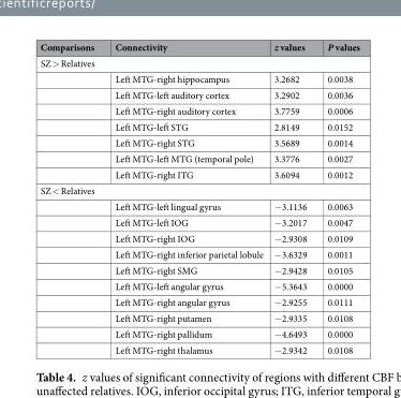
<table><thead><tr><td>Comparisons</td><td>Connectivity</td><td>z values</td><td>P values</td></tr></thead><tbody><tr><td colspan="4">SZ &gt; Relatives</td></tr><tr><td></td><td>Left MTG-right hippocampus</td><td>3.2682</td><td>0.0038</td></tr><tr><td></td><td>Left MTG-left auditory cortex</td><td>3.2902</td><td>0.0036</td></tr><tr><td></td><td>Left MTG-right auditory cortex</td><td>3.7759</td><td>0.0006</td></tr><tr><td></td><td>Left MTG-left STG</td><td>2.8149</td><td>0.0152</td></tr><tr><td></td><td>Left MTG-right STG</td><td>3.5689</td><td>0.0014</td></tr><tr><td></td><td>Left MTG-left MTG (temporal pole)</td><td>3.3776</td><td>0.0027</td></tr><tr><td></td><td>Left MTG-right ITG</td><td>3.6094</td><td>0.0012</td></tr><tr><td colspan="4">SZ &lt; Relatives</td></tr><tr><td></td><td>Left MTG-left lingual gyrus</td><td>−3.1136</td><td>0.0063</td></tr><tr><td></td><td>Left MTG-left IOG</td><td>−3.2017</td><td>0.0047</td></tr><tr><td></td><td>Left MTG-right IOG</td><td>−2.9308</td><td>0.0109</td></tr><tr><td></td><td>Left MTG-right inferior parietal lobule</td><td>−3.6329</td><td>0.0011</td></tr><tr><td></td><td>Left MTG-right SMG</td><td>−2.9428</td><td>0.0105</td></tr><tr><td></td><td>Left MTG-left angular gyrus</td><td>−5.3643</td><td>0.0000</td></tr><tr><td></td><td>Left MTG-right angular gyrus</td><td>−2.9255</td><td>0.0111</td></tr><tr><td></td><td>Left MTG-right putamen</td><td>−2.9335</td><td>0.0108</td></tr><tr><td></td><td>Left MTG-right pallidum</td><td>−4.6493</td><td>0.0000</td></tr><tr><td></td><td>Left MTG-right thalamus</td><td>−2.9342</td><td>0.0108</td></tr></tbody></table>